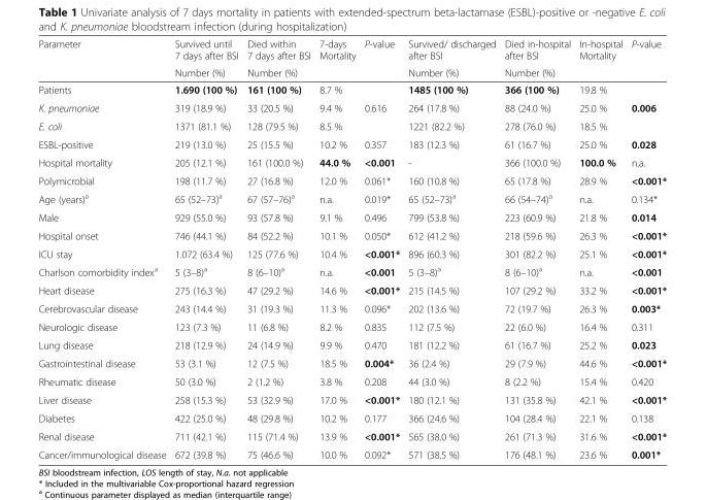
<table><thead><tr><td rowspan="2">Parameter</td><td rowspan="2">Survived until 7 days after BSI Number (%)</td><td rowspan="2">Died within 7 days after BSI Number (%)</td><td rowspan="2">7-days Mortality</td><td rowspan="2">P-value</td><td rowspan="2">Survived/ discharged after BSI Number (%)</td><td rowspan="2">Died in-hospital after BSI Number (%)</td><td rowspan="2">In-hospital Mortality</td><td rowspan="2">P-value</td></tr><tr></tr></thead><tbody><tr><td>Patients</td><td>1.690 (100 %)</td><td>161 (100 %)</td><td>8.7 %</td><td></td><td>1485 (100 %)</td><td>366 (100 %)</td><td>19.8 %</td><td></td></tr><tr><td>K. pneumoniae</td><td>319 (18.9 %)</td><td>33 (20.5 %)</td><td>9.4 %</td><td rowspan="2">0.616</td><td>264 (17.8 %)</td><td>88 (24.0 %)</td><td>25.0 %</td><td rowspan="2">0.006</td></tr><tr><td>E. coli</td><td>1371 (81.1 %)</td><td>128 (79.5 %)</td><td>8.5 %</td><td>1221 (82.2 %)</td><td>278 (76.0 %)</td><td>18.5 %</td></tr><tr><td>ESBL-positive</td><td>219 (13.0 %)</td><td>25 (15.5 %)</td><td>10.2 %</td><td>0.357</td><td>183 (12.3 %)</td><td>61 (16.7 %)</td><td>25.0 %</td><td>0.028</td></tr><tr><td>Hospital mortality</td><td>205 (12.1 %)</td><td>161 (100.0 %)</td><td>44.0 %</td><td>&lt;0.001</td><td>-</td><td>366 (100.0 %)</td><td>100.0 %</td><td>n.a.</td></tr><tr><td>Polymicrobial</td><td>198 (11.7 %)</td><td>27 (16.8 %)</td><td>12.0 %</td><td>0.061*</td><td>160 (10.8 %)</td><td>65 (17.8 %)</td><td>28.9 %</td><td>&lt;0.001*</td></tr><tr><td>Age (years)<sup>a</sup></td><td>65 (52–73)<sup>a</sup></td><td>67 (57–76)<sup>a</sup></td><td>n.a.</td><td>0.019*</td><td>65 (52–73)<sup>a</sup></td><td>66 (54–74)<sup>a</sup></td><td>n.a.</td><td>0.134*</td></tr><tr><td>Male</td><td>929 (55.0 %)</td><td>93 (57.8 %)</td><td>9.1 %</td><td>0.496</td><td>799 (53.8 %)</td><td>223 (60.9 %)</td><td>21.8 %</td><td>0.014</td></tr><tr><td>Hospital onset</td><td>746 (44.1 %)</td><td>84 (52.2 %)</td><td>10.1 %</td><td>0.050*</td><td>612 (41.2 %)</td><td>218 (59.6 %)</td><td>26.3 %</td><td>&lt;0.001*</td></tr><tr><td>ICU stay</td><td>1.072 (63.4 %)</td><td>125 (77.6 %)</td><td>10.4 %</td><td>&lt;0.001*</td><td>896 (60.3 %)</td><td>301 (82.2 %)</td><td>25.1 %</td><td>&lt;0.001*</td></tr><tr><td>Charlson comorbidity index<sup>a</sup></td><td>5 (3–8)<sup>a</sup></td><td>8 (6–10)<sup>a</sup></td><td>n.a.</td><td>&lt;0.001</td><td>5 (3–8)<sup>a</sup></td><td>8 (6–10)<sup>a</sup></td><td>n.a.</td><td>&lt;0.001</td></tr><tr><td>Heart disease</td><td>275 (16.3 %)</td><td>47 (29.2 %)</td><td>14.6 %</td><td>&lt;0.001*</td><td>215 (14.5 %)</td><td>107 (29.2 %)</td><td>33.2 %</td><td>&lt;0.001*</td></tr><tr><td>Cerebrovascular disease</td><td>243 (14.4 %)</td><td>31 (19.3 %)</td><td>11.3 %</td><td>0.096*</td><td>202 (13.6 %)</td><td>72 (19.7 %)</td><td>26.3 %</td><td>0.003*</td></tr><tr><td>Neurologic disease</td><td>123 (7.3 %)</td><td>11 (6.8 %)</td><td>8.2 %</td><td>0.835</td><td>112 (7.5 %)</td><td>22 (6.0 %)</td><td>16.4 %</td><td>0.311</td></tr><tr><td>Lung disease</td><td>218 (12.9 %)</td><td>24 (14.9 %)</td><td>9.9 %</td><td>0.470</td><td>181 (12.2 %)</td><td>61 (16.7 %)</td><td>25.2 %</td><td>0.023</td></tr><tr><td>Gastrointestinal disease</td><td>53 (3.1 %)</td><td>12 (7.5 %)</td><td>18.5 %</td><td>0.004*</td><td>36 (2.4 %)</td><td>29 (7.9 %)</td><td>44.6 %</td><td>&lt;0.001*</td></tr><tr><td>Rheumatic disease</td><td>50 (3.0 %)</td><td>2 (1.2 %)</td><td>3.8 %</td><td>0.208</td><td>44 (3.0 %)</td><td>8 (2.2 %)</td><td>15.4 %</td><td>0.420</td></tr><tr><td>Liver disease</td><td>258 (15.3 %)</td><td>53 (32.9 %)</td><td>17.0 %</td><td>&lt;0.001*</td><td>180 (12.1 %)</td><td>131 (35.8 %)</td><td>42.1 %</td><td>&lt;0.001*</td></tr><tr><td>Diabetes</td><td>422 (25.0 %)</td><td>48 (29.8 %)</td><td>10.2 %</td><td>0.177</td><td>366 (24.6 %)</td><td>104 (28.4 %)</td><td>22.1 %</td><td>0.138</td></tr><tr><td>Renal disease</td><td>711 (42.1 %)</td><td>115 (71.4 %)</td><td>13.9 %</td><td>&lt;0.001*</td><td>565 (38.0 %)</td><td>261 (71.3 %)</td><td>31.6 %</td><td>&lt;0.001*</td></tr><tr><td>Cancer/immunological disease</td><td>672 (39.8 %)</td><td>75 (46.6 %)</td><td>10.0 %</td><td>0.092*</td><td>571 (38.5 %)</td><td>176 (48.1 %)</td><td>23.6 %</td><td>0.001*</td></tr></tbody></table>